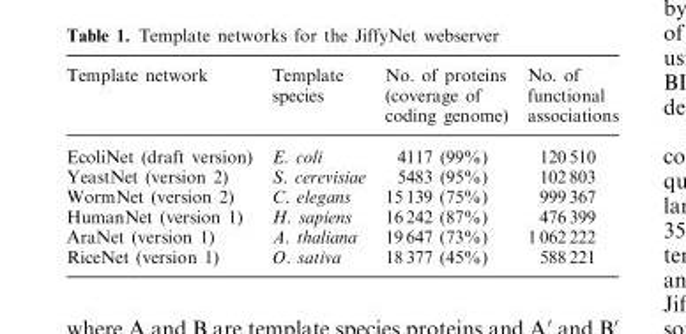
<table><thead><tr><td>Template network</td><td>Template species</td><td>No. of proteins (coverage of coding genome)</td><td>No. of functional associations</td></tr></thead><tbody><tr><td>EcoliNet (draft version)</td><td>E. coli</td><td>4117 (99%)</td><td>120 510</td></tr><tr><td>YeastNet (version 2)</td><td>S. cerevisiae</td><td>5483 (95%)</td><td>102 803</td></tr><tr><td>WormNet (version 2)</td><td>C. elegans</td><td>15 139 (75%)</td><td>999 367</td></tr><tr><td>HumanNet (version 1)</td><td>H. sapiens</td><td>16 242 (87%)</td><td>476 399</td></tr><tr><td>AraNet (version 1)</td><td>A. thaliana</td><td>19 647 (73%)</td><td>1 062 222</td></tr><tr><td>RiceNet (version 1)</td><td>O. sativa</td><td>18 377 (45%)</td><td>588 221</td></tr></tbody></table>